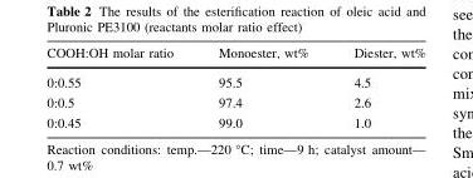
<table><thead><tr><td>COOH:OH molar ratio</td><td>Monoester, wt%</td><td>Diester, wt%</td></tr></thead><tbody><tr><td>0:0.55</td><td>95.5</td><td>4.5</td></tr><tr><td>0:0.5</td><td>97.4</td><td>2.6</td></tr><tr><td>0:0.45</td><td>99.0</td><td>1.0</td></tr></tbody></table>